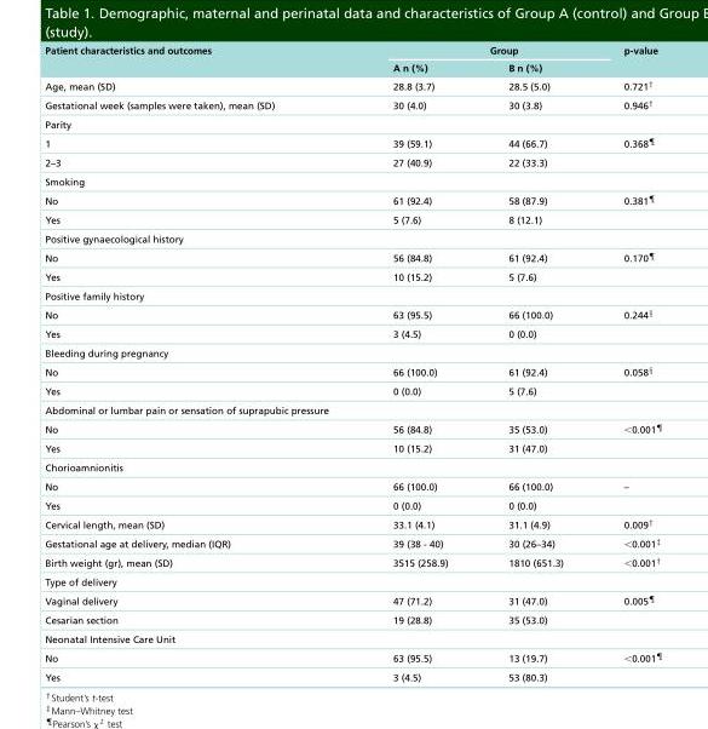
<table><thead><tr><td rowspan="2">Patient characteristics and outcomes</td><td colspan="2">Group</td><td rowspan="2">p-value</td></tr><tr><td>A n (%)</td><td>B n (%)</td></tr></thead><tbody><tr><td>Age, mean (SD)</td><td>28.8 (3.7)</td><td>28.5 (5.0)</td><td>0.721<sup>†</sup></td></tr><tr><td>Gestational week (samples were taken), mean (SD)</td><td>30 (4.0)</td><td>30 (3.8)</td><td>0.946<sup>†</sup></td></tr><tr><td colspan="4">Parity</td></tr><tr><td>1</td><td>39 (59.1)</td><td>44 (66.7)</td><td>0.368<sup>¶</sup></td></tr><tr><td>2–3</td><td>27 (40.9)</td><td>22 (33.3)</td><td></td></tr><tr><td colspan="4">Smoking</td></tr><tr><td>No</td><td>61 (92.4)</td><td>58 (87.9)</td><td>0.381<sup>¶</sup></td></tr><tr><td>Yes</td><td>5 (7.6)</td><td>8 (12.1)</td><td></td></tr><tr><td colspan="4">Positive gynaecological history</td></tr><tr><td>No</td><td>56 (84.8)</td><td>61 (92.4)</td><td>0.170<sup>¶</sup></td></tr><tr><td>Yes</td><td>10 (15.2)</td><td>5 (7.6)</td><td></td></tr><tr><td colspan="4">Positive family history</td></tr><tr><td>No</td><td>63 (95.5)</td><td>66 (100.0)</td><td>0.244<sup>§</sup></td></tr><tr><td>Yes</td><td>3 (4.5)</td><td>0 (0.0)</td><td></td></tr><tr><td colspan="4">Bleeding during pregnancy</td></tr><tr><td>No</td><td>66 (100.0)</td><td>61 (92.4)</td><td>0.058<sup>§</sup></td></tr><tr><td>Yes</td><td>0 (0.0)</td><td>5 (7.6)</td><td></td></tr><tr><td colspan="4">Abdominal or lumbar pain or sensation of suprapubic pressure</td></tr><tr><td>No</td><td>56 (84.8)</td><td>35 (53.0)</td><td>&lt;0.001<sup>¶</sup></td></tr><tr><td>Yes</td><td>10 (15.2)</td><td>31 (47.0)</td><td></td></tr><tr><td colspan="4">Chorioamnionitis</td></tr><tr><td>No</td><td>66 (100.0)</td><td>66 (100.0)</td><td>–</td></tr><tr><td>Yes</td><td>0 (0.0)</td><td>0 (0.0)</td><td></td></tr><tr><td>Cervical length, mean (SD)</td><td>33.1 (4.1)</td><td>31.1 (4.9)</td><td>0.009<sup>†</sup></td></tr><tr><td>Gestational age at delivery, median (IQR)</td><td>39 (38 - 40)</td><td>30 (26–34)</td><td>&lt;0.001<sup>‡</sup></td></tr><tr><td>Birth weight (gr), mean (SD)</td><td>3515 (258.9)</td><td>1810 (651.3)</td><td>&lt;0.001<sup>†</sup></td></tr><tr><td colspan="4">Type of delivery</td></tr><tr><td>Vaginal delivery</td><td>47 (71.2)</td><td>31 (47.0)</td><td>0.005<sup>¶</sup></td></tr><tr><td>Cesarian section</td><td>19 (28.8)</td><td>35 (53.0)</td><td></td></tr><tr><td colspan="4">Neonatal Intensive Care Unit</td></tr><tr><td>No</td><td>63 (95.5)</td><td>13 (19.7)</td><td>&lt;0.001<sup>¶</sup></td></tr><tr><td>Yes</td><td>3 (4.5)</td><td>53 (80.3)</td><td></td></tr></tbody></table>